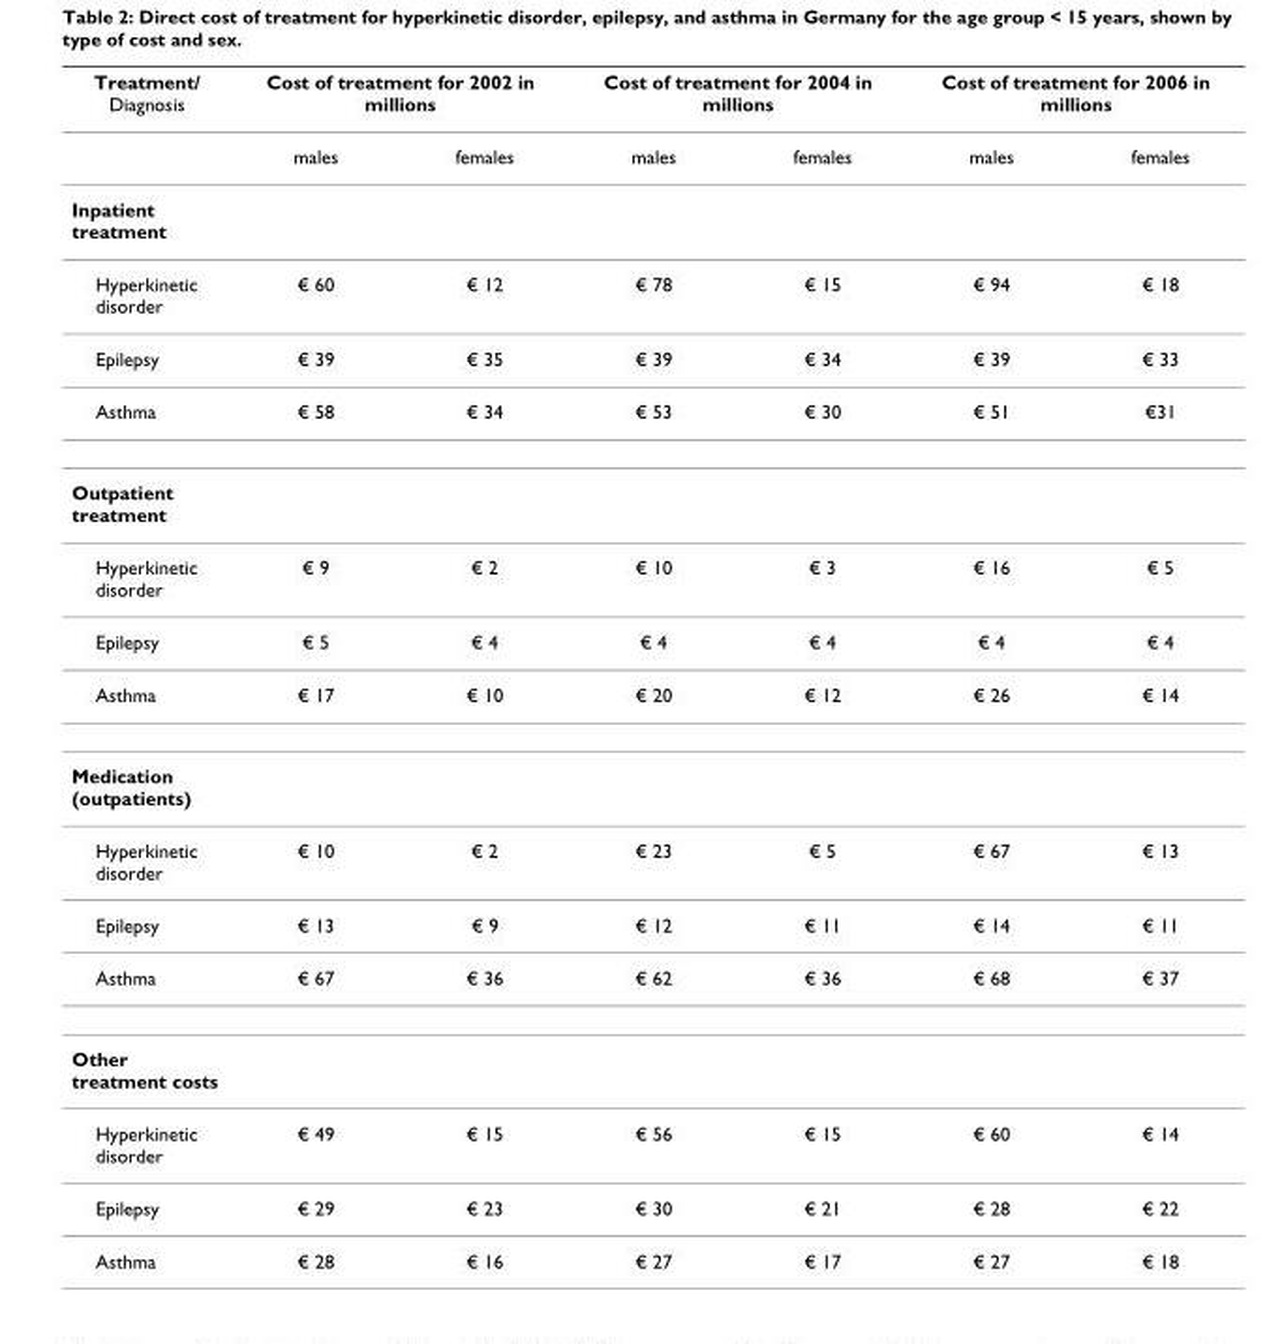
<table><thead><tr><td rowspan="2">Treatment/ Diagnosis</td><td colspan="2">Cost of treatment for 2002 in millions</td><td colspan="2">Cost of treatment for 2004 in millions</td><td colspan="2">Cost of treatment for 2006 in millions</td></tr><tr><td>males</td><td>females</td><td>males</td><td>females</td><td>males</td><td>females</td></tr></thead><tbody><tr><td colspan="7">Inpatient treatment</td></tr><tr><td>Hyperkinetic disorder</td><td>€ 60</td><td>€ 12</td><td>€ 78</td><td>€ 15</td><td>€ 94</td><td>€ 18</td></tr><tr><td>Epilepsy</td><td>€ 39</td><td>€ 35</td><td>€ 39</td><td>€ 34</td><td>€ 39</td><td>€ 33</td></tr><tr><td>Asthma</td><td>€ 58</td><td>€ 34</td><td>€ 53</td><td>€ 30</td><td>€ 51</td><td>€31</td></tr><tr><td colspan="7">Outpatient treatment</td></tr><tr><td>Hyperkinetic disorder</td><td>€ 9</td><td>€ 2</td><td>€ 10</td><td>€ 3</td><td>€ 16</td><td>€ 5</td></tr><tr><td>Epilepsy</td><td>€ 5</td><td>€ 4</td><td>€ 4</td><td>€ 4</td><td>€ 4</td><td>€ 4</td></tr><tr><td>Asthma</td><td>€ 17</td><td>€ 10</td><td>€ 20</td><td>€ 12</td><td>€ 26</td><td>€ 14</td></tr><tr><td colspan="7">Medication (outpatients)</td></tr><tr><td>Hyperkinetic disorder</td><td>€ 10</td><td>€ 2</td><td>€ 23</td><td>€ 5</td><td>€ 67</td><td>€ 13</td></tr><tr><td>Epilepsy</td><td>€ 13</td><td>€ 9</td><td>€ 12</td><td>€ 11</td><td>€ 14</td><td>€ 11</td></tr><tr><td>Asthma</td><td>€ 67</td><td>€ 36</td><td>€ 62</td><td>€ 36</td><td>€ 68</td><td>€ 37</td></tr><tr><td colspan="7">Other treatment costs</td></tr><tr><td>Hyperkinetic disorder</td><td>€ 49</td><td>€ 15</td><td>€ 56</td><td>€ 15</td><td>€ 60</td><td>€ 14</td></tr><tr><td>Epilepsy</td><td>€ 29</td><td>€ 23</td><td>€ 30</td><td>€ 21</td><td>€ 28</td><td>€ 22</td></tr><tr><td>Asthma</td><td>€ 28</td><td>€ 16</td><td>€ 27</td><td>€ 17</td><td>€ 27</td><td>€ 18</td></tr></tbody></table>